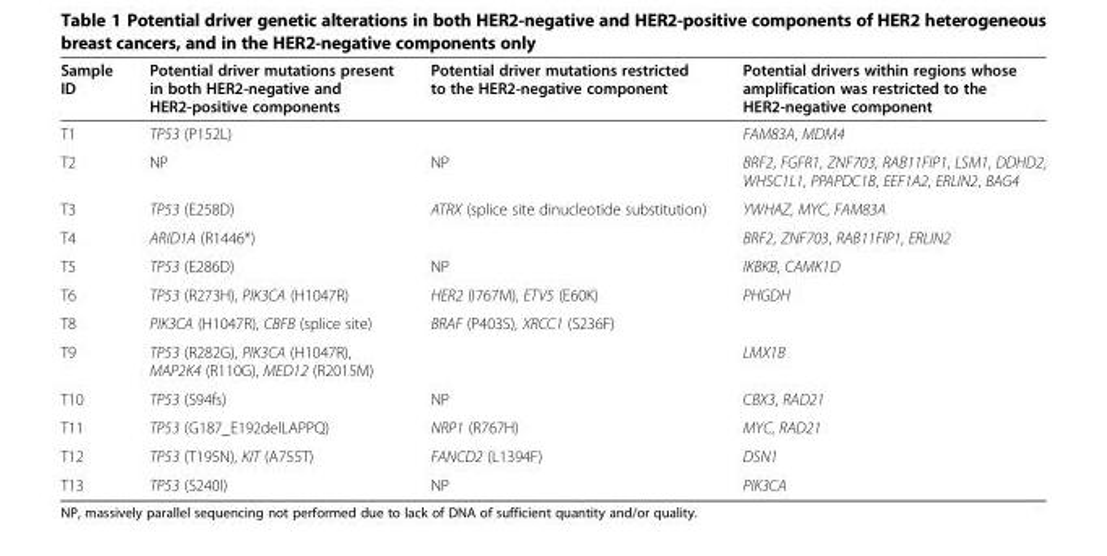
<table><thead><tr><td>Sample ID</td><td>Potential driver mutations present in both HER2-negative and HER2-positive components</td><td>Potential driver mutations restricted to the HER2-negative component</td><td>Potential drivers within regions whose amplification was restricted to the HER2-negative component</td></tr></thead><tbody><tr><td>T1</td><td>TP53 (P152L)</td><td></td><td>FAM83A, MDM4</td></tr><tr><td>T2</td><td>NP</td><td>NP</td><td>BRF2, FGFR1, ZNF703, RAB11FIP1, LSM1, DDHD2, WHSC1L1, PPAPDC1B, EEF1A2, ERLIN2, BAG4</td></tr><tr><td>T3</td><td>TP53 (E258D)</td><td>ATRX (splice site dinucleotide substitution)</td><td>YWHAZ, MYC, FAM83A</td></tr><tr><td>T4</td><td>ARID1A (R1446*)</td><td></td><td>BRF2, ZNF703, RAB11FIP1, ERLIN2</td></tr><tr><td>T5</td><td>TP53 (E286D)</td><td>NP</td><td>IKBKB, CAMK1D</td></tr><tr><td>T6</td><td>TP53 (R273H), PIK3CA (H1047R)</td><td>HER2 (I767M), ETV5 (E60K)</td><td>PHGDH</td></tr><tr><td>T8</td><td>PIK3CA (H1047R), CBFB (splice site)</td><td>BRAF (P403S), XRCC1 (S236F)</td><td></td></tr><tr><td>T9</td><td>TP53 (R282G), PIK3CA (H1047R), MAP2K4 (R110G), MED12 (R2015M)</td><td></td><td>LMX1B</td></tr><tr><td>T10</td><td>TP53 (S94fs)</td><td>NP</td><td>CBX3, RAD21</td></tr><tr><td>T11</td><td>TP53 (G187_E192delLAPPQ)</td><td>NRP1 (R767H)</td><td>MYC, RAD21</td></tr><tr><td>T12</td><td>TP53 (T195N), KIT (A755T)</td><td>FANCD2 (L1394F)</td><td>DSN1</td></tr><tr><td>T13</td><td>TP53 (S240I)</td><td>NP</td><td>PIK3CA</td></tr></tbody></table>